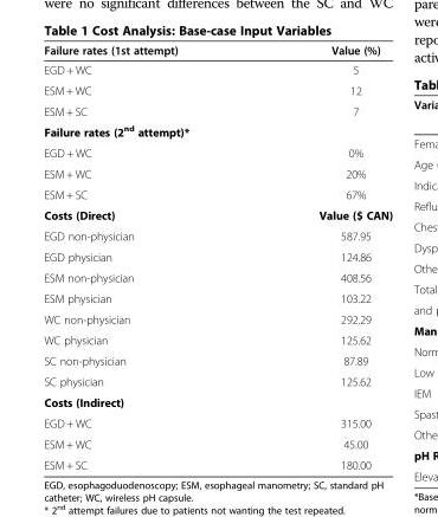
<table><thead><tr><td>Failure rates (1st attempt)</td><td>Value (%)</td></tr></thead><tbody><tr><td>EGD + WC</td><td>5</td></tr><tr><td>ESM + WC</td><td>12</td></tr><tr><td>ESM + SC</td><td>7</td></tr><tr><td colspan="2">Failure rates (2<sup>nd</sup> attempt)*</td></tr><tr><td>EGD + WC</td><td>0%</td></tr><tr><td>ESM + WC</td><td>20%</td></tr><tr><td>ESM + SC</td><td>67%</td></tr><tr><td>Costs (Direct)</td><td>Value ($ CAN)</td></tr><tr><td>EGD non-physician</td><td>587.95</td></tr><tr><td>EGD physician</td><td>124.86</td></tr><tr><td>ESM non-physician</td><td>408.56</td></tr><tr><td>ESM physician</td><td>103.22</td></tr><tr><td>WC non-physician</td><td>292.29</td></tr><tr><td>WC physician</td><td>125.62</td></tr><tr><td>SC non-physician</td><td>87.89</td></tr><tr><td>SC physician</td><td>125.62</td></tr><tr><td colspan="2">Costs (Indirect)</td></tr><tr><td>EGD + WC</td><td>315.00</td></tr><tr><td>ESM + WC</td><td>45.00</td></tr><tr><td>ESM + SC</td><td>180.00</td></tr></tbody></table>